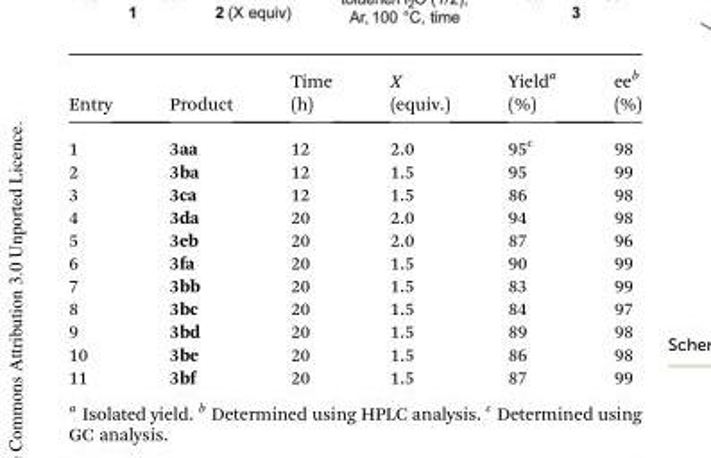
<table><thead><tr><td>Entry</td><td>Product</td><td>Time (h)</td><td>X (equiv.)</td><td>Yield<sup>a</sup> (%)</td><td>ee<sup>b</sup> (%)</td></tr></thead><tbody><tr><td>1</td><td>3aa</td><td>12</td><td>2.0</td><td>95<sup>c</sup></td><td>98</td></tr><tr><td>2</td><td>3ba</td><td>12</td><td>1.5</td><td>95</td><td>99</td></tr><tr><td>3</td><td>3ca</td><td>12</td><td>1.5</td><td>86</td><td>98</td></tr><tr><td>4</td><td>3da</td><td>20</td><td>2.0</td><td>94</td><td>98</td></tr><tr><td>5</td><td>3eb</td><td>20</td><td>2.0</td><td>87</td><td>96</td></tr><tr><td>6</td><td>3fa</td><td>20</td><td>1.5</td><td>90</td><td>99</td></tr><tr><td>7</td><td>3bb</td><td>20</td><td>1.5</td><td>83</td><td>99</td></tr><tr><td>8</td><td>3bc</td><td>20</td><td>1.5</td><td>84</td><td>97</td></tr><tr><td>9</td><td>3bd</td><td>20</td><td>1.5</td><td>89</td><td>98</td></tr><tr><td>10</td><td>3be</td><td>20</td><td>1.5</td><td>86</td><td>98</td></tr><tr><td>11</td><td>3bf</td><td>20</td><td>1.5</td><td>87</td><td>99</td></tr></tbody></table>